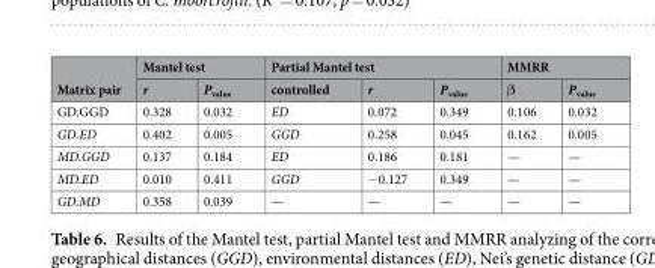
<table><thead><tr><td rowspan="2">Matrix pair</td><td colspan="2">Mantel test</td><td colspan="3">Partial Mantel test</td><td colspan="2">MMRR</td></tr><tr><td>r</td><td>P<sub>value</sub></td><td>controlled</td><td>r</td><td>P<sub>value</sub></td><td>β</td><td>P<sub>value</sub></td></tr></thead><tbody><tr><td>GD.GGD</td><td>0.328</td><td>0.032</td><td>ED</td><td>0.072</td><td>0.349</td><td>0.106</td><td>0.032</td></tr><tr><td>GD.ED</td><td>0.402</td><td>0.005</td><td>GGD</td><td>0.258</td><td>0.045</td><td>0.162</td><td>0.005</td></tr><tr><td>MD.GGD</td><td>0.137</td><td>0.184</td><td>ED</td><td>0.186</td><td>0.181</td><td>—</td><td>—</td></tr><tr><td>MD.ED</td><td>0.010</td><td>0.411</td><td>GGD</td><td>−0.127</td><td>0.349</td><td>—</td><td>—</td></tr><tr><td>GD.MD</td><td>0.358</td><td>0.039</td><td>—</td><td>—</td><td>—</td><td>—</td><td>—</td></tr></tbody></table>